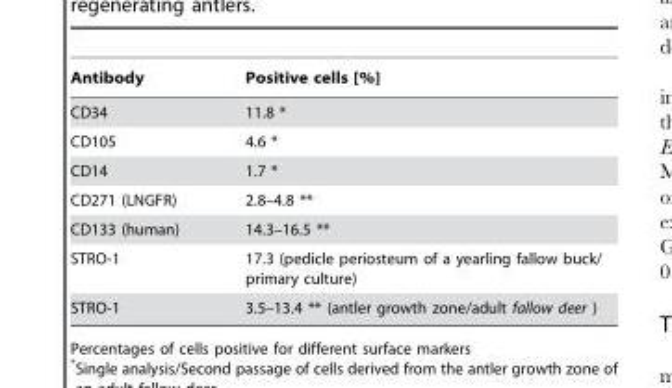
<table><thead><tr><td>Antibody</td><td>Positive cells [%]</td></tr></thead><tbody><tr><td>CD34</td><td>11.8 *</td></tr><tr><td>CD105</td><td>4.6 *</td></tr><tr><td>CD14</td><td>1.7 *</td></tr><tr><td>CD271 (LNGFR)</td><td>2.8–4.8 **</td></tr><tr><td>CD133 (human)</td><td>14.3–16.5 **</td></tr><tr><td>STRO-1</td><td>17.3 (pedicle periosteum of a yearling fallow buck/ primary culture)</td></tr><tr><td>STRO-1</td><td>3.5–13.4 ** (antler growth zone/adult fallow deer )</td></tr></tbody></table>